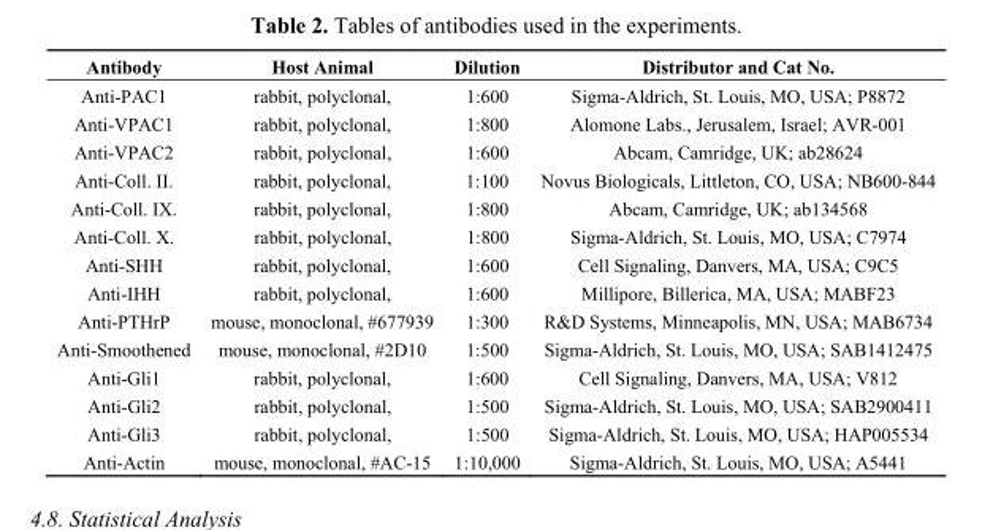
<table><thead><tr><td>Antibody</td><td>Host Animal</td><td>Dilution</td><td>Distributor and Cat No.</td></tr></thead><tbody><tr><td>Anti-PAC1</td><td>rabbit, polyclonal,</td><td>1:600</td><td>Sigma-Aldrich, St. Louis, MO, USA; P8872</td></tr><tr><td>Anti-VPAC1</td><td>rabbit, polyclonal,</td><td>1:800</td><td>Alomone Labs., Jerusalem, Israel; AVR-001</td></tr><tr><td>Anti-VPAC2</td><td>rabbit, polyclonal,</td><td>1:600</td><td>Abcam, Camridge, UK; ab28624</td></tr><tr><td>Anti-Coll. II.</td><td>rabbit, polyclonal,</td><td>1:100</td><td>Novus Biologicals, Littleton, CO, USA; NB600-844</td></tr><tr><td>Anti-Coll. IX.</td><td>rabbit, polyclonal,</td><td>1:800</td><td>Abcam, Camridge, UK; ab134568</td></tr><tr><td>Anti-Coll. X.</td><td>rabbit, polyclonal,</td><td>1:800</td><td>Sigma-Aldrich, St. Louis, MO, USA; C7974</td></tr><tr><td>Anti-SHH</td><td>rabbit, polyclonal,</td><td>1:600</td><td>Cell Signaling, Danvers, MA, USA; C9C5</td></tr><tr><td>Anti-IHH</td><td>rabbit, polyclonal,</td><td>1:600</td><td>Millipore, Billerica, MA, USA; MABF23</td></tr><tr><td>Anti-PTHrP</td><td>mouse, monoclonal, #677939</td><td>1:300</td><td>R&amp;D Systems, Minneapolis, MN, USA; MAB6734</td></tr><tr><td>Anti-Smoothened</td><td>mouse, monoclonal, #2D10</td><td>1:500</td><td>Sigma-Aldrich, St. Louis, MO, USA; SAB1412475</td></tr><tr><td>Anti-Gli1</td><td>rabbit, polyclonal,</td><td>1:600</td><td>Cell Signaling, Danvers, MA, USA; V812</td></tr><tr><td>Anti-Gli2</td><td>rabbit, polyclonal,</td><td>1:500</td><td>Sigma-Aldrich, St. Louis, MO, USA; SAB2900411</td></tr><tr><td>Anti-Gli3</td><td>rabbit, polyclonal,</td><td>1:500</td><td>Sigma-Aldrich, St. Louis, MO, USA; HAP005534</td></tr><tr><td>Anti-Actin</td><td>mouse, monoclonal, #AC-15</td><td>1:10,000</td><td>Sigma-Aldrich, St. Louis, MO, USA; A5441</td></tr></tbody></table>